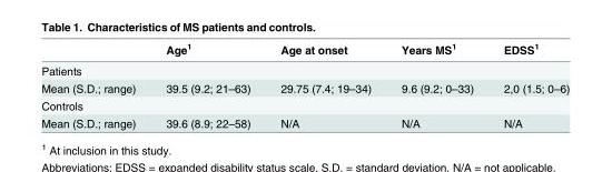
<table><thead><tr><td></td><td>Age<sup>1</sup></td><td>Age at onset</td><td>Years MS<sup>1</sup></td><td>EDSS<sup>1</sup></td></tr></thead><tbody><tr><td colspan="5">Patients</td></tr><tr><td>Mean (S.D.; range)</td><td>39.5 (9.2; 21–63)</td><td>29.75 (7.4; 19–34)</td><td>9.6 (9.2; 0–33)</td><td>2,0 (1.5; 0–6)</td></tr><tr><td colspan="5">Controls</td></tr><tr><td>Mean (S.D.; range)</td><td>39.6 (8.9; 22–58)</td><td>N/A</td><td>N/A</td><td>N/A</td></tr></tbody></table>